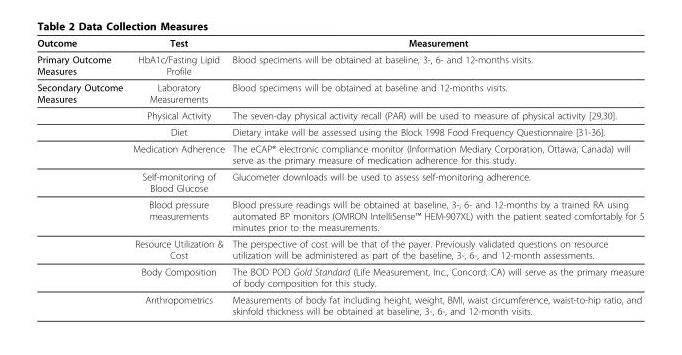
<table><thead><tr><td>Outcome</td><td>Test</td><td>Measurement</td></tr></thead><tbody><tr><td>Primary Outcome Measures</td><td>HbA1c/Fasting Lipid Profile</td><td>Blood specimens will be obtained at baseline, 3-, 6- and 12-months visits.</td></tr><tr><td rowspan="9">Secondary Outcome Measures</td><td>Laboratory Measurements</td><td>Blood specimens will be obtained at baseline and 12-months visits.</td></tr><tr><td>Physical Activity</td><td>The seven-day physical activity recall (PAR) will be used to measure of physical activity [29,30].</td></tr><tr><td>Diet</td><td>Dietary intake will be assessed using the Block 1998 Food Frequency Questionnaire [31-36].</td></tr><tr><td>Medication Adherence</td><td>The eCAP<sup>®</sup> electronic compliance monitor (Information Mediary Corporation, Ottawa, Canada) will serve as the primary measure of medication adherence for this study.</td></tr><tr><td>Self-monitoring of Blood Glucose</td><td>Glucometer downloads will be used to assess self-monitoring adherence.</td></tr><tr><td>Blood pressure measurements</td><td>Blood pressure readings will be obtained at baseline, 3-, 6- and 12-months by a trained RA using automated BP monitors (OMRON IntelliSense™ HEM-907XL) with the patient seated comfortably for 5 minutes prior to the measurements.</td></tr><tr><td>Resource Utilization &amp; Cost</td><td>The perspective of cost will be that of the payer. Previously validated questions on resource utilization will be administered as part of the baseline, 3-, 6-, and 12-month assessments.</td></tr><tr><td>Body Composition</td><td>The BOD POD Gold Standard (Life Measurement, Inc., Concord, CA) will serve as the primary measure of body composition for this study.</td></tr><tr><td>Anthropometrics</td><td>Measurements of body fat including height, weight, BMI, waist circumference, waist-to-hip ratio, and skinfold thickness will be obtained at baseline, 3-, 6-, and 12-month visits.</td></tr></tbody></table>